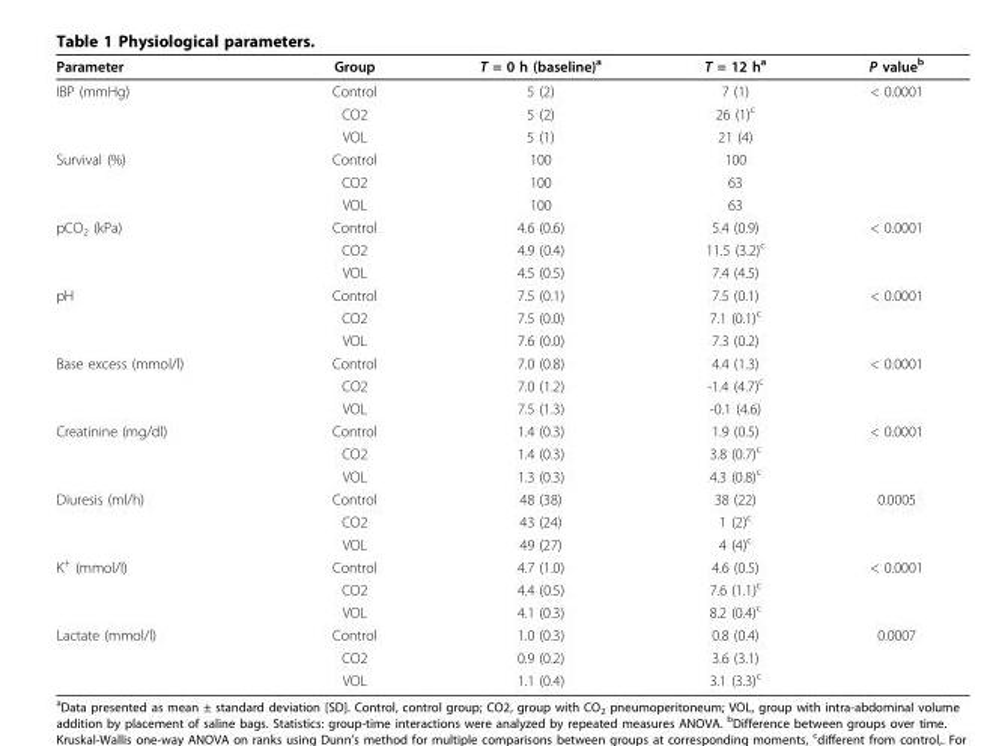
<table><thead><tr><td>Parameter</td><td>Group</td><td>T = 0 h (baseline)<sup>a</sup></td><td>T = 12 h<sup>a</sup></td><td>P value<sup>b</sup></td></tr></thead><tbody><tr><td rowspan="3">IBP (mmHg)</td><td>Control</td><td>5 (2)</td><td>7 (1)</td><td>&lt; 0.0001</td></tr><tr><td>CO2</td><td>5 (2)</td><td>26 (1)<sup>c</sup></td><td></td></tr><tr><td>VOL</td><td>5 (1)</td><td>21 (4)</td><td></td></tr><tr><td rowspan="3">Survival (%)</td><td>Control</td><td>100</td><td>100</td><td></td></tr><tr><td>CO2</td><td>100</td><td>63</td><td></td></tr><tr><td>VOL</td><td>100</td><td>63</td><td></td></tr><tr><td rowspan="3">pCO<sub>2</sub> (kPa)</td><td>Control</td><td>4.6 (0.6)</td><td>5.4 (0.9)</td><td>&lt; 0.0001</td></tr><tr><td>CO2</td><td>4.9 (0.4)</td><td>11.5 (3.2)<sup>c</sup></td><td></td></tr><tr><td>VOL</td><td>4.5 (0.5)</td><td>7.4 (4.5)</td><td></td></tr><tr><td rowspan="3">pH</td><td>Control</td><td>7.5 (0.1)</td><td>7.5 (0.1)</td><td>&lt; 0.0001</td></tr><tr><td>CO2</td><td>7.5 (0.0)</td><td>7.1 (0.1)<sup>c</sup></td><td></td></tr><tr><td>VOL</td><td>7.6 (0.0)</td><td>7.3 (0.2)</td><td></td></tr><tr><td rowspan="3">Base excess (mmol/l)</td><td>Control</td><td>7.0 (0.8)</td><td>4.4 (1.3)</td><td>&lt; 0.0001</td></tr><tr><td>CO2</td><td>7.0 (1.2)</td><td>-1.4 (4.7)<sup>c</sup></td><td></td></tr><tr><td>VOL</td><td>7.5 (1.3)</td><td>-0.1 (4.6)</td><td></td></tr><tr><td rowspan="3">Creatinine (mg/dl)</td><td>Control</td><td>1.4 (0.3)</td><td>1.9 (0.5)</td><td>&lt; 0.0001</td></tr><tr><td>CO2</td><td>1.4 (0.3)</td><td>3.8 (0.7)<sup>c</sup></td><td></td></tr><tr><td>VOL</td><td>1.3 (0.3)</td><td>4.3 (0.8)<sup>c</sup></td><td></td></tr><tr><td rowspan="3">Diuresis (ml/h)</td><td>Control</td><td>48 (38)</td><td>38 (22)</td><td>0.0005</td></tr><tr><td>CO2</td><td>43 (24)</td><td>1 (2)<sup>c</sup></td><td></td></tr><tr><td>VOL</td><td>49 (27)</td><td>4 (4)<sup>c</sup></td><td></td></tr><tr><td rowspan="3">K<sup>+</sup> (mmol/l)</td><td>Control</td><td>4.7 (1.0)</td><td>4.6 (0.5)</td><td>&lt; 0.0001</td></tr><tr><td>CO2</td><td>4.4 (0.5)</td><td>7.6 (1.1)<sup>c</sup></td><td></td></tr><tr><td>VOL</td><td>4.1 (0.3)</td><td>8.2 (0.4)<sup>c</sup></td><td></td></tr><tr><td rowspan="3">Lactate (mmol/l)</td><td>Control</td><td>1.0 (0.3)</td><td>0.8 (0.4)</td><td>0.0007</td></tr><tr><td>CO2</td><td>0.9 (0.2)</td><td>3.6 (3.1)</td><td></td></tr><tr><td>VOL</td><td>1.1 (0.4)</td><td>3.1 (3.3)<sup>c</sup></td><td></td></tr></tbody></table>